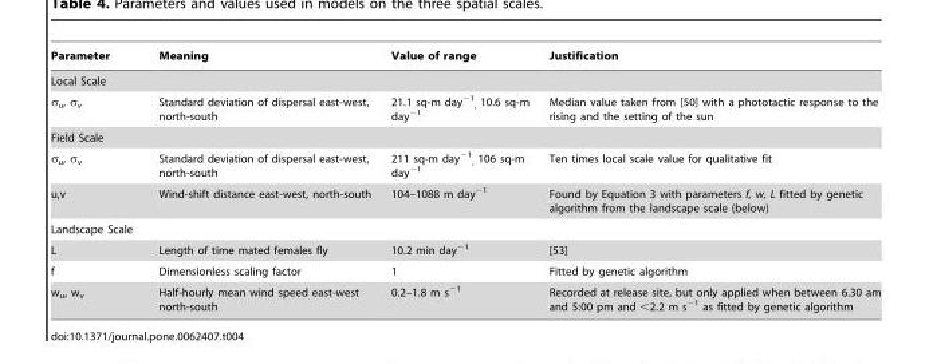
<table><thead><tr><td>Parameter</td><td>Meaning</td><td>Value of range</td><td>Justification</td></tr></thead><tbody><tr><td colspan="4">Local Scale</td></tr><tr><td>σ<sub>u</sub>, σ<sub>v</sub></td><td>Standard deviation of dispersal east-west, north-south</td><td>21.1 sq-m day<sup>−1</sup> <sub>,</sub> 10.6 sq-m day<sup>−1</sup></td><td>Median value taken from [50] with a phototactic response to the rising and the setting of the sun</td></tr><tr><td colspan="4">Field Scale</td></tr><tr><td>σ<sub>u</sub>, σ<sub>v</sub></td><td>Standard deviation of dispersal east-west, north-south</td><td>211 sq-m day<sup>−1</sup> <sub>,</sub> 106 sq-m day<sup>−1</sup></td><td>Ten times local scale value for qualitative fit</td></tr><tr><td>u,v</td><td>Wind-shift distance east-west, north-south</td><td>104–1088 m day<sup>−1</sup></td><td>Found by Equation 3 with parameters f, w, L fitted by genetic algorithm from the landscape scale (below)</td></tr><tr><td colspan="4">Landscape Scale</td></tr><tr><td>L</td><td>Length of time mated females fly</td><td>10.2 min day<sup>−1</sup></td><td>[53]</td></tr><tr><td>f</td><td>Dimensionless scaling factor</td><td>1</td><td>Fitted by genetic algorithm</td></tr><tr><td>w<sub>u</sub>, w<sub>v</sub></td><td>Half-hourly mean wind speed east-west north-south</td><td>0.2–1.8 m s<sup>−1</sup></td><td>Recorded at release site, but only applied when between 6.30 am and 5:00 pm and &lt;2.2 m s−1 as fitted by genetic algorithm</td></tr></tbody></table>